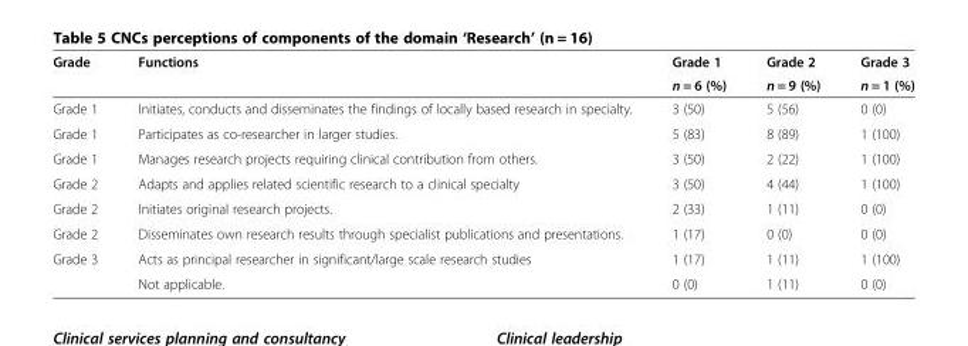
<table><thead><tr><td rowspan="2">Grade</td><td rowspan="2">Functions</td><td rowspan="2">Grade 1 n = 6 (%)</td><td rowspan="2">Grade 2 n = 9 (%)</td><td rowspan="2">Grade 3 n = 1 (%)</td></tr><tr></tr></thead><tbody><tr><td>Grade 1</td><td>Initiates, conducts and disseminates the findings of locally based research in specialty.</td><td>3 (50)</td><td>5 (56)</td><td>0 (0)</td></tr><tr><td>Grade 1</td><td>Participates as co-researcher in larger studies.</td><td>5 (83)</td><td>8 (89)</td><td>1 (100)</td></tr><tr><td>Grade 1</td><td>Manages research projects requiring clinical contribution from others.</td><td>3 (50)</td><td>2 (22)</td><td>1 (100)</td></tr><tr><td>Grade 2</td><td>Adapts and applies related scientific research to a clinical specialty</td><td>3 (50)</td><td>4 (44)</td><td>1 (100)</td></tr><tr><td>Grade 2</td><td>Initiates original research projects.</td><td>2 (33)</td><td>1 (11)</td><td>0 (0)</td></tr><tr><td>Grade 2</td><td>Disseminates own research results through specialist publications and presentations.</td><td>1 (17)</td><td>0 (0)</td><td>0 (0)</td></tr><tr><td rowspan="2">Grade 3</td><td>Acts as principal researcher in significant/large scale research studies</td><td>1 (17)</td><td>1 (11)</td><td>1 (100)</td></tr><tr><td>Not applicable.</td><td>0 (0)</td><td>1 (11)</td><td>0 (0)</td></tr></tbody></table>